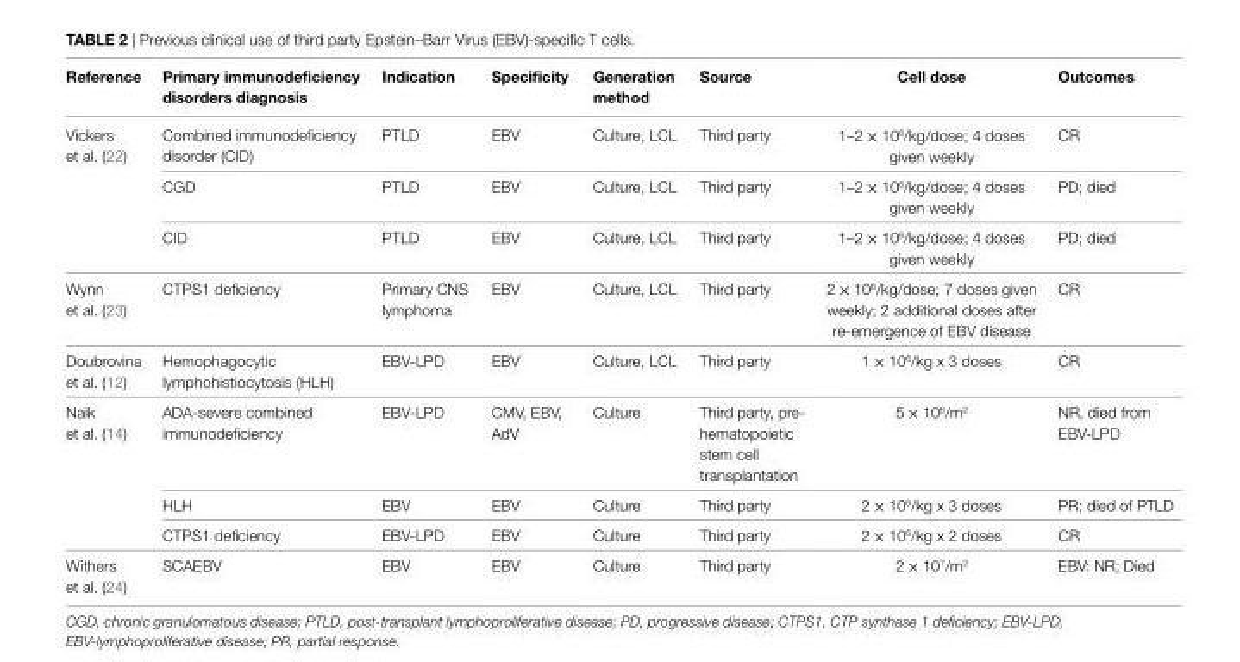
<table><thead><tr><td>Reference</td><td>Primary immunodeficiency disorders diagnosis</td><td>indication</td><td>Specificity</td><td>Generation method</td><td>Source</td><td>Cell dose</td><td>Outcomes</td></tr></thead><tbody><tr><td rowspan="3">Vickers et al. (22)</td><td>Combined immunodeficiency disorder (CID)</td><td>PTLD</td><td>EBV</td><td>Culture, LCL</td><td>Third party</td><td>1–2 × 10<sup>6</sup>/kg/dose; 4 doses given weekly</td><td>CR</td></tr><tr><td>CGD</td><td>PTLD</td><td>EBV</td><td>Culture, LCL</td><td>Third party</td><td>1–2 × 10<sup>6</sup>/kg/dose; 4 doses given weekly</td><td>PD; died</td></tr><tr><td>CID</td><td>PTLD</td><td>EBV</td><td>Culture, LCL</td><td>Third party</td><td>1–2 × 10<sup>6</sup>/kg/dose; 4 doses given weekly</td><td>PD; died</td></tr><tr><td>Wynn et al. (23)</td><td>CTPS1 deficiency</td><td>Primary CNS lymphoma</td><td>EBV</td><td>Culture, LCL</td><td>Third party</td><td>2 × 10<sup>6</sup>/kg/dose; 7 doses given weekly; 2 additional doses after re-emergence of EBV disease</td><td>CR</td></tr><tr><td>Doubrovina et al. (12)</td><td>Hemophagocytic lymphohistiocytosis (HLH)</td><td>EBV-LPD</td><td>EBV</td><td>Culture, LCL</td><td>Third party</td><td>1 × 10<sup>6</sup>/kg x 3 doses</td><td>CR</td></tr><tr><td rowspan="3">Naik et al. (14)</td><td>ADA-severe combined immunodeficiency</td><td>EBV-LPD</td><td>CMV, EBV, AdV</td><td>Culture</td><td>Third party, pre- hematopoietic stem cell transplantation</td><td>5 × 10<sup>6</sup>/m<sup>2</sup></td><td>NR, died from EBV-LPD</td></tr><tr><td>HLH</td><td>EBV</td><td>EBV</td><td>Culture</td><td>Third party</td><td>2 × 10<sup>6</sup>/kg x 3 doses</td><td>PR; died of PTLD</td></tr><tr><td>CTPS1 deficiency</td><td>EBV-LPD</td><td>EBV</td><td>Culture</td><td>Third party</td><td>2 × 10<sup>6</sup>/kg x 2 doses</td><td>CR</td></tr><tr><td>Withers et al. (24)</td><td>SCAEBV</td><td>EBV</td><td>EBV</td><td>Culture</td><td>Third party</td><td>2 × 10<sup>7</sup>/m<sup>2</sup></td><td>EBV: NR; Died</td></tr></tbody></table>